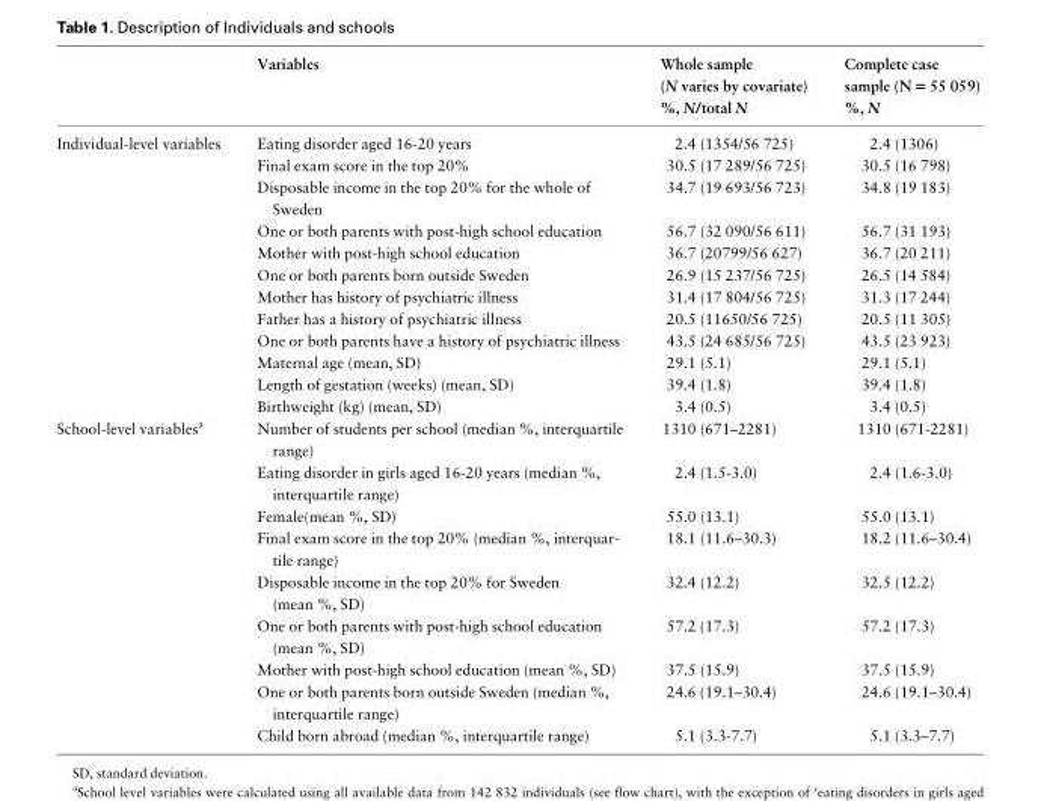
<table><thead><tr><td></td><td>Variables</td><td>Whole sample (N varies by covariate) %, N/total N</td><td>Complete case sample (N = 55 059) %, N</td></tr></thead><tbody><tr><td rowspan="12">Individual-level variables</td><td>Eating disorder aged 16-20 years</td><td>2.4 (1354/56 725)</td><td>2.4 (1306)</td></tr><tr><td>Final exam score in the top 20%</td><td>30.5 (17 289/56 725)</td><td>30.5 (16 798)</td></tr><tr><td>Disposable income in the top 20% for the whole of Sweden</td><td>34.7 (19 693/56 723)</td><td>34.8 (19 183)</td></tr><tr><td>One or both parents with post-high school education</td><td>56.7 (32 090/56 611)</td><td>56.7 (31 193)</td></tr><tr><td>Mother with post-high school education</td><td>36.7 (20799/56 627)</td><td>36.7 (20 211)</td></tr><tr><td>One or both parents born outside Sweden</td><td>26.9 (15 237/56 725)</td><td>26.5 (14 584)</td></tr><tr><td>Mother has history of psychiatric illness</td><td>31.4 (17 804/56 725)</td><td>31.3 (17 244)</td></tr><tr><td>Father has a history of psychiatric illness</td><td>20.5 (11650/56 725)</td><td>20.5 (11 305)</td></tr><tr><td>One or both parents have a history of psychiatric illness</td><td>43.5 (24 685/56 725)</td><td>43.5 (23 923)</td></tr><tr><td>Maternal age (mean, SD)</td><td>29.1 (5.1)</td><td>29.1 (5.1)</td></tr><tr><td>Length of gestation (weeks) (mean, SD)</td><td>39.4 (1.8)</td><td>39.4 (1.8)</td></tr><tr><td>Birthweight (kg) (mean, SD)</td><td>3.4 (0.5)</td><td>3.4 (0.5)</td></tr><tr><td rowspan="9">School-level variables<sup>a</sup></td><td>Number of students per school (median %, interquartile range)</td><td>1310 (671–2281)</td><td>1310 (671-2281)</td></tr><tr><td>Eating disorder in girls aged 16-20 years (median %, interquartile range)</td><td>2.4 (1.5-3.0)</td><td>2.4 (1.6-3.0)</td></tr><tr><td>Female(mean %, SD)</td><td>55.0 (13.1)</td><td>55.0 (13.1)</td></tr><tr><td>Final exam score in the top 20% (median %, interquar- tile range)</td><td>18.1 (11.6–30.3)</td><td>18.2 (11.6–30.4)</td></tr><tr><td>Disposable income in the top 20% for Sweden (mean %, SD)</td><td>32.4 (12.2)</td><td>32.5 (12.2)</td></tr><tr><td>One or both parents with post-high school education (mean %, SD)</td><td>57.2 (17.3)</td><td>57.2 (17.3)</td></tr><tr><td>Mother with post-high school education (mean %, SD)</td><td>37.5 (15.9)</td><td>37.5 (15.9)</td></tr><tr><td>One or both parents born outside Sweden (median %, interquartile range)</td><td>24.6 (19.1–30.4)</td><td>24.6 (19.1–30.4)</td></tr><tr><td>Child born abroad (median %, interquartile range)</td><td>5.1 (3.3-7.7)</td><td>5.1 (3.3–7.7)</td></tr></tbody></table>